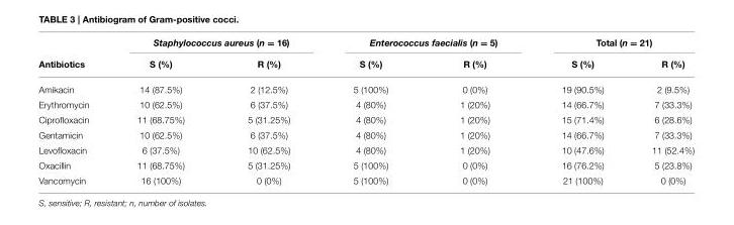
<table><thead><tr><td rowspan="2">Antibiotics</td><td colspan="2">Staphylococcus aureus (n = 16)</td><td colspan="2">Enterococcus faecialis (n = 5)</td><td colspan="2">Total (n = 21)</td></tr><tr><td>S (%)</td><td>R (%)</td><td>S (%)</td><td>R (%)</td><td>S (%)</td><td>R (%)</td></tr></thead><tbody><tr><td>Amikacin</td><td>14 (87.5%)</td><td>2 (12.5%)</td><td>5 (100%)</td><td>0 (0%)</td><td>19 (90.5%)</td><td>2 (9.5%)</td></tr><tr><td>Erythromycin</td><td>10 (62.5%)</td><td>6 (37.5%)</td><td>4 (80%)</td><td>1 (20%)</td><td>14 (66.7%)</td><td>7 (33.3%)</td></tr><tr><td>Ciprofloxacin</td><td>11 (68.75%)</td><td>5 (31.25%)</td><td>4 (80%)</td><td>1 (20%)</td><td>15 (71.4%)</td><td>6 (28.6%)</td></tr><tr><td>Gentamicin</td><td>10 (62.5%)</td><td>6 (37.5%)</td><td>4 (80%)</td><td>1 (20%)</td><td>14 (66.7%)</td><td>7 (33.3%)</td></tr><tr><td>Levofloxacin</td><td>6 (37.5%)</td><td>10 (62.5%)</td><td>4 (80%)</td><td>1 (20%)</td><td>10 (47.6%)</td><td>11 (52.4%)</td></tr><tr><td>Oxacillin</td><td>11 (68.75%)</td><td>5 (31.25%)</td><td>5 (100%)</td><td>0 (0%)</td><td>16 (76.2%)</td><td>5 (23.8%)</td></tr><tr><td>Vancomycin</td><td>16 (100%)</td><td>0 (0%)</td><td>5 (100%)</td><td>0 (0%)</td><td>21 (100%)</td><td>0 (0%)</td></tr></tbody></table>